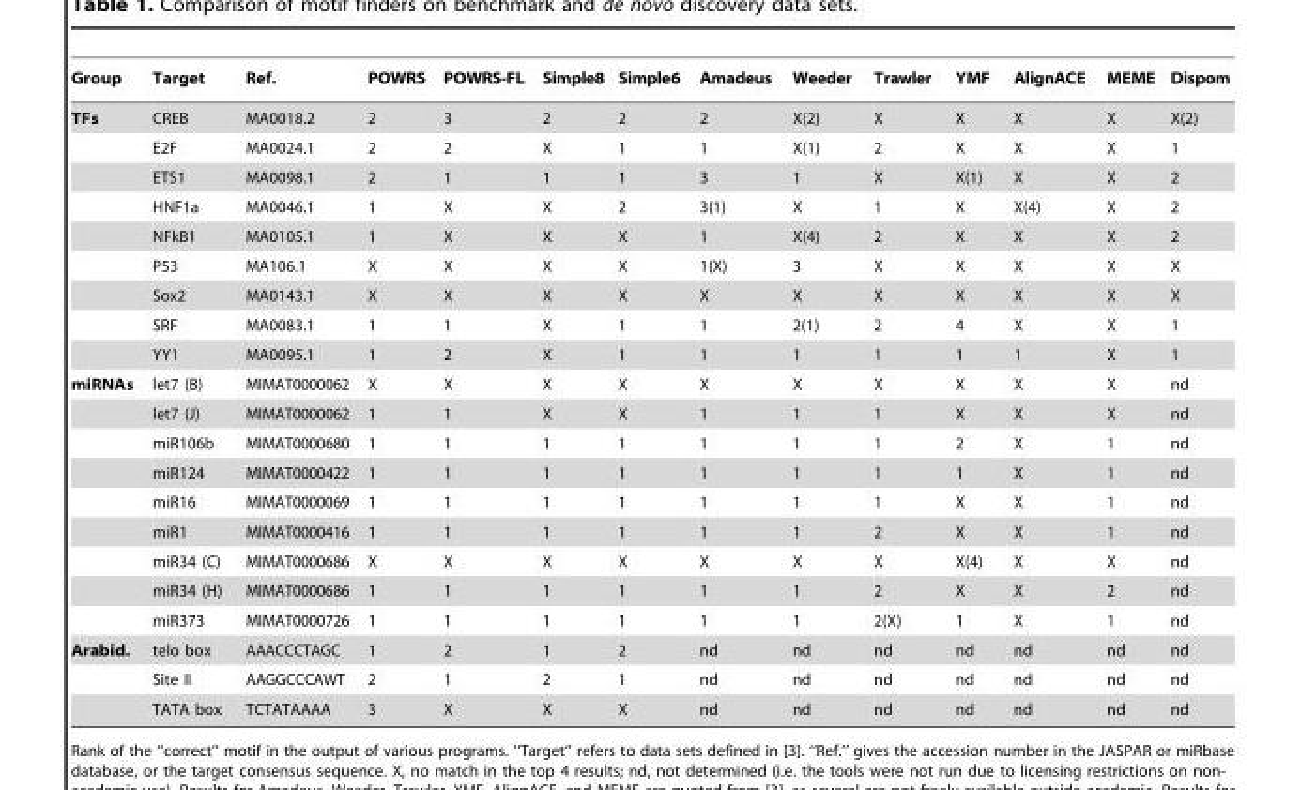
<table><thead><tr><td>Group</td><td>Target</td><td>Ref.</td><td>POWRS</td><td>POWRS-FL</td><td>Simple8</td><td>Simple6</td><td>Amadeus</td><td>Weeder</td><td>Trawler</td><td>YMF</td><td>AlignACE</td><td>MEME</td><td>Dispom</td></tr></thead><tbody><tr><td rowspan="9">TFs</td><td>CREB</td><td>MA0018.2</td><td>2</td><td>3</td><td>2</td><td>2</td><td>2</td><td>X(2)</td><td>X</td><td>X</td><td>X</td><td>X</td><td>X(2)</td></tr><tr><td>E2F</td><td>MA0024.1</td><td>2</td><td>2</td><td>X</td><td>1</td><td>1</td><td>X(1)</td><td>2</td><td>X</td><td>X</td><td>X</td><td>1</td></tr><tr><td>ETS1</td><td>MA0098.1</td><td>2</td><td>1</td><td>1</td><td>1</td><td>3</td><td>1</td><td>X</td><td>X(1)</td><td>X</td><td>X</td><td>2</td></tr><tr><td>HNF1a</td><td>MA0046.1</td><td>1</td><td>X</td><td>X</td><td>2</td><td>3(1)</td><td>X</td><td>1</td><td>X</td><td>X(4)</td><td>X</td><td>2</td></tr><tr><td>NFkB1</td><td>MA0105.1</td><td>1</td><td>X</td><td>X</td><td>X</td><td>1</td><td>X(4)</td><td>2</td><td>X</td><td>X</td><td>X</td><td>2</td></tr><tr><td>P53</td><td>MA106.1</td><td>X</td><td>X</td><td>X</td><td>X</td><td>1(X)</td><td>3</td><td>X</td><td>X</td><td>X</td><td>X</td><td>X</td></tr><tr><td>Sox2</td><td>MA0143.1</td><td>X</td><td>X</td><td>X</td><td>X</td><td>X</td><td>X</td><td>X</td><td>X</td><td>X</td><td>X</td><td>X</td></tr><tr><td>SRF</td><td>MA0083.1</td><td>1</td><td>1</td><td>X</td><td>1</td><td>1</td><td>2(1)</td><td>2</td><td>4</td><td>X</td><td>X</td><td>1</td></tr><tr><td>YY1</td><td>MA0095.1</td><td>1</td><td>2</td><td>X</td><td>1</td><td>1</td><td>1</td><td>1</td><td>1</td><td>1</td><td>X</td><td>1</td></tr><tr><td rowspan="9">miRNAs</td><td>let7 (B)</td><td>MIMAT0000062</td><td>X</td><td>X</td><td>X</td><td>X</td><td>X</td><td>X</td><td>X</td><td>X</td><td>X</td><td>X</td><td>nd</td></tr><tr><td>let7 (J)</td><td>MIMAT0000062</td><td>1</td><td>1</td><td>X</td><td>X</td><td>1</td><td>1</td><td>1</td><td>X</td><td>X</td><td>X</td><td>nd</td></tr><tr><td>miR106b</td><td>MIMAT0000680</td><td>1</td><td>1</td><td>1</td><td>1</td><td>1</td><td>1</td><td>1</td><td>2</td><td>X</td><td>1</td><td>nd</td></tr><tr><td>miR124</td><td>MIMAT0000422</td><td>1</td><td>1</td><td>1</td><td>1</td><td>1</td><td>1</td><td>1</td><td>1</td><td>X</td><td>1</td><td>nd</td></tr><tr><td>miR16</td><td>MIMAT0000069</td><td>1</td><td>1</td><td>1</td><td>1</td><td>1</td><td>1</td><td>1</td><td>X</td><td>X</td><td>1</td><td>nd</td></tr><tr><td>miR1</td><td>MIMAT0000416</td><td>1</td><td>1</td><td>1</td><td>1</td><td>1</td><td>1</td><td>2</td><td>X</td><td>X</td><td>1</td><td>nd</td></tr><tr><td>miR34 (C)</td><td>MIMAT0000686</td><td>X</td><td>X</td><td>X</td><td>X</td><td>X</td><td>X</td><td>X</td><td>X(4)</td><td>X</td><td>X</td><td>nd</td></tr><tr><td>miR34 (H)</td><td>MIMAT0000686</td><td>1</td><td>1</td><td>1</td><td>1</td><td>1</td><td>1</td><td>2</td><td>X</td><td>X</td><td>2</td><td>nd</td></tr><tr><td>miR373</td><td>MIMAT0000726</td><td>1</td><td>1</td><td>1</td><td>1</td><td>1</td><td>1</td><td>2(X)</td><td>1</td><td>X</td><td>1</td><td>nd</td></tr><tr><td rowspan="3">Arabid.</td><td>telo box</td><td>AAACCCTAGC</td><td>1</td><td>2</td><td>1</td><td>2</td><td>nd</td><td>nd</td><td>nd</td><td>nd</td><td>nd</td><td>nd</td><td>nd</td></tr><tr><td>Site II</td><td>AAGGCCCAWT</td><td>2</td><td>1</td><td>2</td><td>1</td><td>nd</td><td>nd</td><td>nd</td><td>nd</td><td>nd</td><td>nd</td><td>nd</td></tr><tr><td>TATA box</td><td>TCTATAAAA</td><td>3</td><td>X</td><td>X</td><td>X</td><td>nd</td><td>nd</td><td>nd</td><td>nd</td><td>nd</td><td>nd</td><td>nd</td></tr></tbody></table>